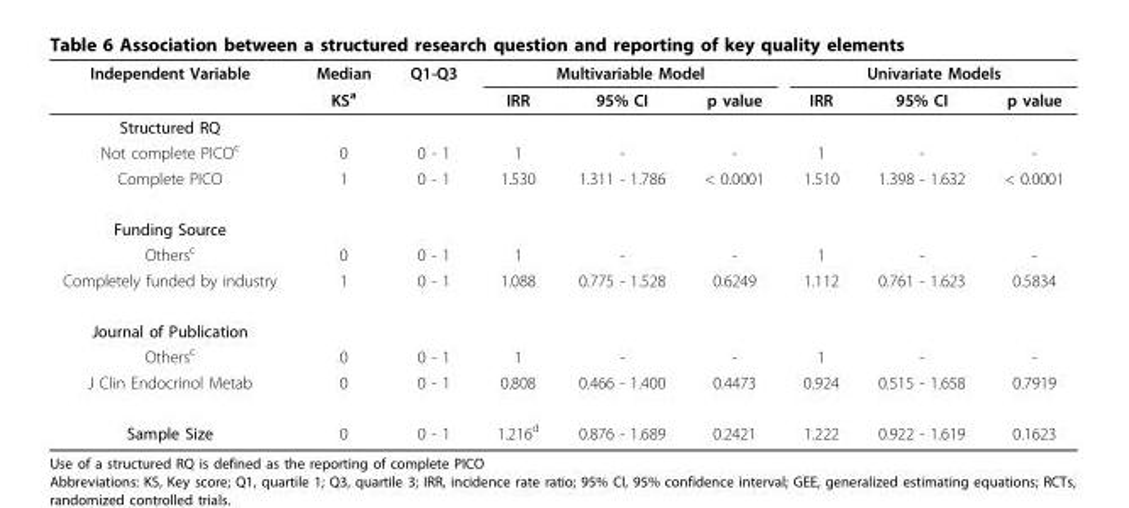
<table><thead><tr><td rowspan="2">Independent Variable</td><td rowspan="2">Median KS<sup>a</sup></td><td rowspan="2">Q1-Q3</td><td colspan="3">Multivariable Model</td><td colspan="3">Univariate Models</td></tr><tr><td>IRR</td><td>95% CI</td><td>p value</td><td>IRR</td><td>95% CI</td><td>p value</td></tr></thead><tbody><tr><td colspan="9">Structured RQ</td></tr><tr><td>Not complete PICO<sup>c</sup></td><td>0</td><td>0 - 1</td><td>1</td><td>-</td><td>-</td><td>1</td><td>-</td><td>-</td></tr><tr><td>Complete PICO</td><td>1</td><td>0 - 1</td><td>1.530</td><td>1.311 - 1.786</td><td>&lt; 0.0001</td><td>1.510</td><td>1.398 - 1.632</td><td>&lt; 0.0001</td></tr><tr><td colspan="9">Funding Source</td></tr><tr><td>Others<sup>c</sup></td><td>0</td><td>0 - 1</td><td>1</td><td>-</td><td>-</td><td>1</td><td>-</td><td>-</td></tr><tr><td>Completely funded by industry</td><td>1</td><td>0 - 1</td><td>1.088</td><td>0.775 - 1.528</td><td>0.6249</td><td>1.112</td><td>0.761 - 1.623</td><td>0.5834</td></tr><tr><td colspan="9">Journal of Publication</td></tr><tr><td>Others<sup>c</sup></td><td>0</td><td>0 - 1</td><td>1</td><td>-</td><td>-</td><td>1</td><td>-</td><td>-</td></tr><tr><td>J Clin Endocrinol Metab</td><td>0</td><td>0 - 1</td><td>0.808</td><td>0.466 - 1.400</td><td>0.4473</td><td>0.924</td><td>0.515 - 1.658</td><td>0.7919</td></tr><tr><td>Sample Size</td><td>0</td><td>0 - 1</td><td>1.216<sup>d</sup></td><td>0.876 - 1.689</td><td>0.2421</td><td>1.222</td><td>0.922 - 1.619</td><td>0.1623</td></tr></tbody></table>